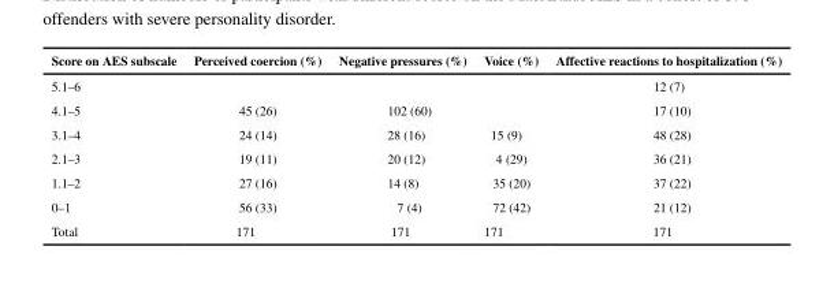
<table><thead><tr><td>Score on AES subscale</td><td>Perceived coercion (%)</td><td>Negative pressures (%)</td><td>Voice (%)</td><td>Affective reactions to hospitalization (%)</td></tr></thead><tbody><tr><td>5.1–6</td><td></td><td></td><td></td><td>12 (7)</td></tr><tr><td>4.1–5</td><td>45 (26)</td><td>102 (60)</td><td></td><td>17 (10)</td></tr><tr><td>3.1–4</td><td>24 (14)</td><td>28 (16)</td><td>15 (9)</td><td>48 (28)</td></tr><tr><td>2.1–3</td><td>19 (11)</td><td>20 (12)</td><td>4 (29)</td><td>36 (21)</td></tr><tr><td>1.1–2</td><td>27 (16)</td><td>14 (8)</td><td>35 (20)</td><td>37 (22)</td></tr><tr><td>0–1</td><td>56 (33)</td><td>7 (4)</td><td>72 (42)</td><td>21 (12)</td></tr><tr><td>Total</td><td>171</td><td>171</td><td>171</td><td>171</td></tr></tbody></table>